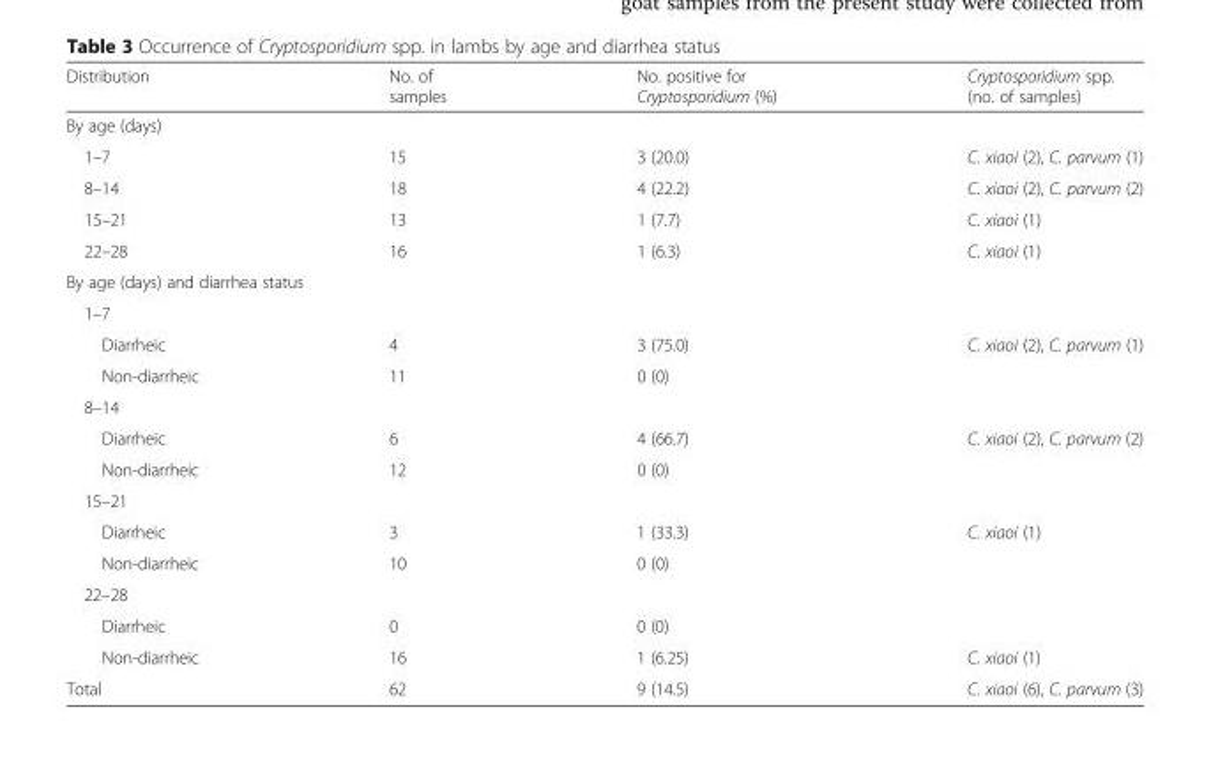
<table><thead><tr><td>Distribution</td><td>No. of samples</td><td>No. positive for Cryptosporidium (%)</td><td>Cryptosporidium spp. (no. of samples)</td></tr></thead><tbody><tr><td colspan="4">By age (days)</td></tr><tr><td>1–7</td><td>15</td><td>3 (20.0)</td><td>C. xiaoi (2), C. parvum (1)</td></tr><tr><td>8–14</td><td>18</td><td>4 (22.2)</td><td>C. xiaoi (2), C. parvum (2)</td></tr><tr><td>15–21</td><td>13</td><td>1 (7.7)</td><td>C. xiaoi (1)</td></tr><tr><td>22–28</td><td>16</td><td>1 (6.3)</td><td>C. xiaoi (1)</td></tr><tr><td colspan="4">By age (days) and diarrhea status</td></tr><tr><td colspan="4">1–7</td></tr><tr><td>Diarrheic</td><td>4</td><td>3 (75.0)</td><td>C. xiaoi (2), C. parvum (1)</td></tr><tr><td>Non-diarrheic</td><td>11</td><td>0 (0)</td><td></td></tr><tr><td colspan="4">8–14</td></tr><tr><td>Diarrheic</td><td>6</td><td>4 (66.7)</td><td>C. xiaoi (2), C. parvum (2)</td></tr><tr><td>Non-diarrheic</td><td>12</td><td>0 (0)</td><td></td></tr><tr><td colspan="4">15–21</td></tr><tr><td>Diarrheic</td><td>3</td><td>1 (33.3)</td><td>C. xiaoi (1)</td></tr><tr><td>Non-diarrheic</td><td>10</td><td>0 (0)</td><td></td></tr><tr><td colspan="4">22–28</td></tr><tr><td>Diarrheic</td><td>0</td><td>0 (0)</td><td></td></tr><tr><td>Non-diarrheic</td><td>16</td><td>1 (6.25)</td><td>C. xiaoi (1)</td></tr><tr><td>Total</td><td>62</td><td>9 (14.5)</td><td>C. xiaoi (6), C. parvum (3)</td></tr></tbody></table>